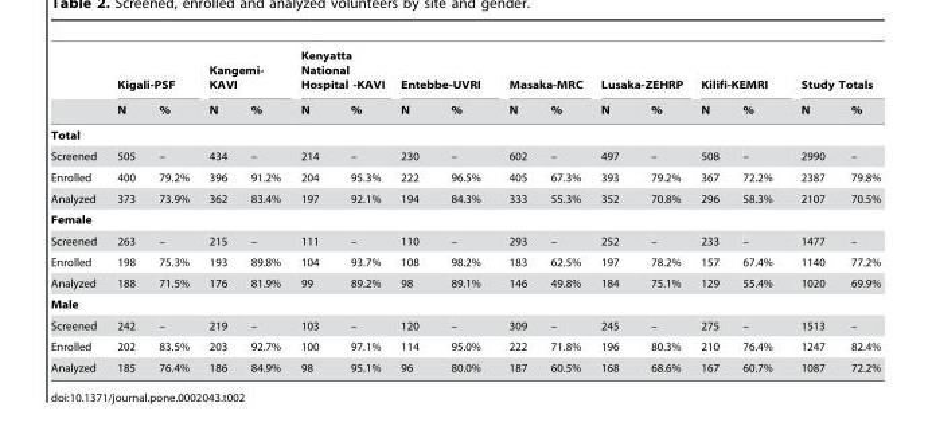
<table><thead><tr><td rowspan="2"></td><td colspan="2">Kigali-PSF</td><td colspan="2">Kangemi- KAVI</td><td colspan="2">Kenyatta National Hospital -KAVI</td><td colspan="2">Entebbe-UVRI</td><td colspan="2">Masaka-MRC</td><td colspan="2">Lusaka-ZEHRP</td><td colspan="2">Kilifi-KEMRI</td><td colspan="2">Study Totals</td></tr><tr><td>N</td><td>%</td><td>N</td><td>%</td><td>N</td><td>%</td><td>N</td><td>%</td><td>N</td><td>%</td><td>N</td><td>%</td><td>N</td><td>%</td><td>N</td><td>%</td></tr></thead><tbody><tr><td colspan="17">Total</td></tr><tr><td>Screened</td><td>505</td><td>–</td><td>434</td><td>–</td><td>214</td><td>–</td><td>230</td><td>–</td><td>602</td><td>–</td><td>497</td><td>–</td><td>508</td><td>–</td><td>2990</td><td>–</td></tr><tr><td>Enrolled</td><td>400</td><td>79.2%</td><td>396</td><td>91.2%</td><td>204</td><td>95.3%</td><td>222</td><td>96.5%</td><td>405</td><td>67.3%</td><td>393</td><td>79.2%</td><td>367</td><td>72.2%</td><td>2387</td><td>79.8%</td></tr><tr><td>Analyzed</td><td>373</td><td>73.9%</td><td>362</td><td>83.4%</td><td>197</td><td>92.1%</td><td>194</td><td>84.3%</td><td>333</td><td>55.3%</td><td>352</td><td>70.8%</td><td>296</td><td>58.3%</td><td>2107</td><td>70.5%</td></tr><tr><td colspan="17">Female</td></tr><tr><td>Screened</td><td>263</td><td>–</td><td>215</td><td>–</td><td>111</td><td>–</td><td>110</td><td>–</td><td>293</td><td>–</td><td>252</td><td>–</td><td>233</td><td>–</td><td>1477</td><td>–</td></tr><tr><td>Enrolled</td><td>198</td><td>75.3%</td><td>193</td><td>89.8%</td><td>104</td><td>93.7%</td><td>108</td><td>98.2%</td><td>183</td><td>62.5%</td><td>197</td><td>78.2%</td><td>157</td><td>67.4%</td><td>1140</td><td>77.2%</td></tr><tr><td>Analyzed</td><td>188</td><td>71.5%</td><td>176</td><td>81.9%</td><td>99</td><td>89.2%</td><td>98</td><td>89.1%</td><td>146</td><td>49.8%</td><td>184</td><td>75.1%</td><td>129</td><td>55.4%</td><td>1020</td><td>69.9%</td></tr><tr><td colspan="17">Male</td></tr><tr><td>Screened</td><td>242</td><td>–</td><td>219</td><td>–</td><td>103</td><td>–</td><td>120</td><td>–</td><td>309</td><td>–</td><td>245</td><td>–</td><td>275</td><td>–</td><td>1513</td><td>–</td></tr><tr><td>Enrolled</td><td>202</td><td>83.5%</td><td>203</td><td>92.7%</td><td>100</td><td>97.1%</td><td>114</td><td>95.0%</td><td>222</td><td>71.8%</td><td>196</td><td>80.3%</td><td>210</td><td>76.4%</td><td>1247</td><td>82.4%</td></tr><tr><td>Analyzed</td><td>185</td><td>76.4%</td><td>186</td><td>84.9%</td><td>98</td><td>95.1%</td><td>96</td><td>80.0%</td><td>187</td><td>60.5%</td><td>168</td><td>68.6%</td><td>167</td><td>60.7%</td><td>1087</td><td>72.2%</td></tr></tbody></table>